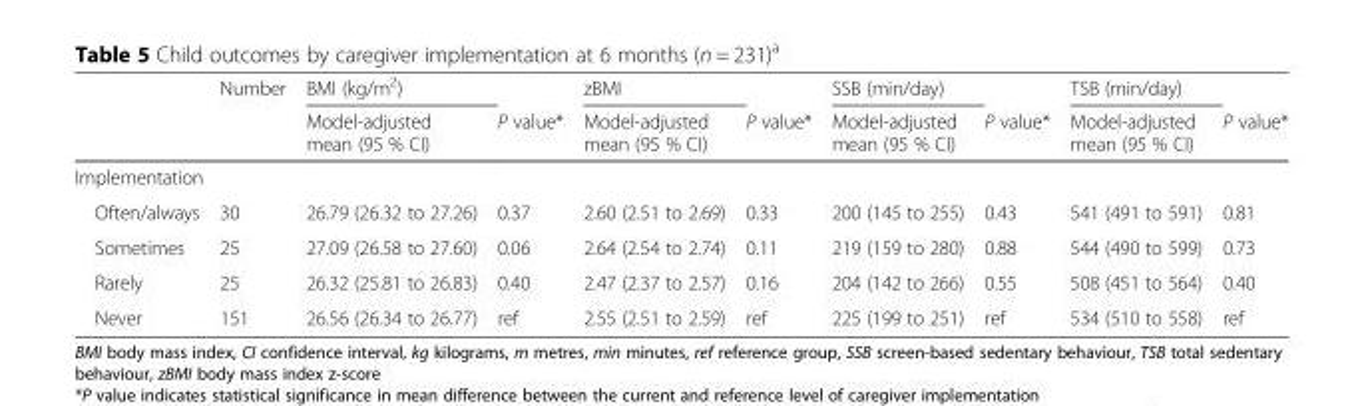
<table><thead><tr><td rowspan="2"></td><td rowspan="2">Number</td><td rowspan="2">BMI (kg/m<sup>2</sup>) Model-adjusted mean (95 % CI)</td><td rowspan="2">P value*</td><td rowspan="2">zBMI Model-adjusted mean (95 % CI)</td><td rowspan="2">P value*</td><td rowspan="2">SSB (min/day) Model-adjusted mean (95 % CI)</td><td rowspan="2">P value*</td><td rowspan="2">TSB (min/day) Model-adjusted mean (95 % CI)</td><td rowspan="2">P value*</td></tr><tr></tr></thead><tbody><tr><td colspan="10">Implementation</td></tr><tr><td>Often/always</td><td>30</td><td>26.79 (26.32 to 27.26)</td><td>0.37</td><td>2.60 (2.51 to 2.69)</td><td>0.33</td><td>200 (145 to 255)</td><td>0.43</td><td>541 (491 to 591)</td><td>0.81</td></tr><tr><td>Sometimes</td><td>25</td><td>27.09 (26.58 to 27.60)</td><td>0.06</td><td>2.64 (2.54 to 2.74)</td><td>0.11</td><td>219 (159 to 280)</td><td>0.88</td><td>544 (490 to 599)</td><td>0.73</td></tr><tr><td>Rarely</td><td>25</td><td>26.32 (25.81 to 26.83)</td><td>0.40</td><td>2.47 (2.37 to 2.57)</td><td>0.16</td><td>204 (142 to 266)</td><td>0.55</td><td>508 (451 to 564)</td><td>0.40</td></tr><tr><td>Never</td><td>151</td><td>26.56 (26.34 to 26.77)</td><td>ref</td><td>2.55 (2.51 to 2.59)</td><td>ref</td><td>225 (199 to 251)</td><td>ref</td><td>534 (510 to 558)</td><td>ref</td></tr></tbody></table>